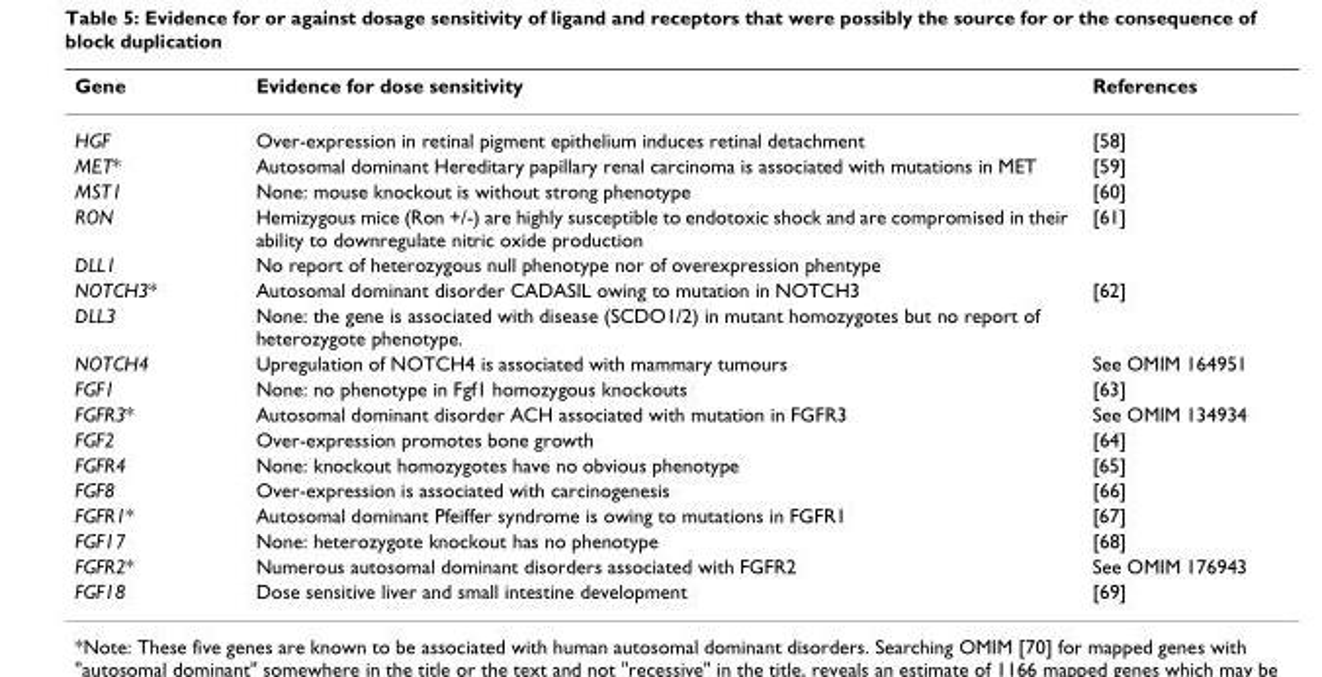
<table><thead><tr><td>Gene</td><td>Evidence for dose sensitivity</td><td>References</td></tr></thead><tbody><tr><td>HGF</td><td>Over-expression in retinal pigment epithelium induces retinal detachment</td><td>[58]</td></tr><tr><td>MET*</td><td>Autosomal dominant Hereditary papillary renal carcinoma is associated with mutations in MET</td><td>[59]</td></tr><tr><td>MST1</td><td>None: mouse knockout is without strong phenotype</td><td>[60]</td></tr><tr><td>RON</td><td>Hemizygous mice (Ron +/-) are highly susceptible to endotoxic shock and are compromised in their ability to downregulate nitric oxide production</td><td>[61]</td></tr><tr><td>DLL1</td><td>No report of heterozygous null phenotype nor of overexpression phentype</td><td></td></tr><tr><td>NOTCH3*</td><td>Autosomal dominant disorder CADASIL owing to mutation in NOTCH3</td><td>[62]</td></tr><tr><td>DLL3</td><td>None: the gene is associated with disease (SCDO1/2) in mutant homozygotes but no report of heterozygote phenotype.</td><td></td></tr><tr><td>NOTCH4</td><td>Upregulation of NOTCH4 is associated with mammary tumours</td><td>See OMIM 164951</td></tr><tr><td>FGF1</td><td>None: no phenotype in Fgf1 homozygous knockouts</td><td>[63]</td></tr><tr><td>FGFR3*</td><td>Autosomal dominant disorder ACH associated with mutation in FGFR3</td><td>See OMIM 134934</td></tr><tr><td>FGF2</td><td>Over-expression promotes bone growth</td><td>[64]</td></tr><tr><td>FGFR4</td><td>None: knockout homozygotes have no obvious phenotype</td><td>[65]</td></tr><tr><td>FGF8</td><td>Over-expression is associated with carcinogenesis</td><td>[66]</td></tr><tr><td>FGFR1*</td><td>Autosomal dominant Pfeiffer syndrome is owing to mutations in FGFR1</td><td>[67]</td></tr><tr><td>FGF17</td><td>None: heterozygote knockout has no phenotype</td><td>[68]</td></tr><tr><td>FGFR2*</td><td>Numerous autosomal dominant disorders associated with FGFR2</td><td>See OMIM 176943</td></tr><tr><td>FGF18</td><td>Dose sensitive liver and small intestine development</td><td>[69]</td></tr></tbody></table>